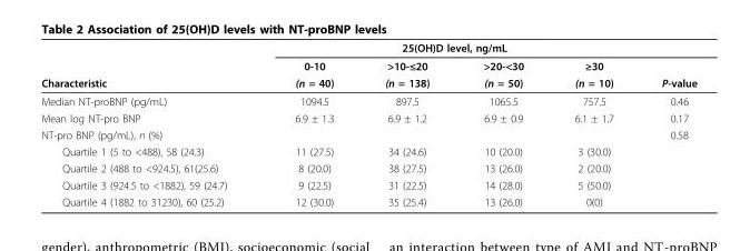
<table><thead><tr><td rowspan="3">Characteristic</td><td rowspan="3">0-10 (n = 40)</td><td colspan="2">25(OH)D level, ng/mL</td><td rowspan="3">≥30 (n = 10)</td><td rowspan="3">P-value</td></tr><tr><td rowspan="2">&gt;10-≤20 (n = 138)</td><td rowspan="2">&gt;20-&lt;30 (n = 50)</td></tr><tr></tr></thead><tbody><tr><td>Median NT-proBNP (pg/mL)</td><td>1094.5</td><td>897.5</td><td>1065.5</td><td>757.5</td><td>0.46</td></tr><tr><td>Mean log NT-pro BNP</td><td>6.9 ± 1.3</td><td>6.9 ± 1.2</td><td>6.9 ± 0.9</td><td>6.1 ± 1.7</td><td>0.17</td></tr><tr><td>NT-pro BNP (pg/mL), n (%)</td><td></td><td></td><td></td><td></td><td>0.58</td></tr><tr><td>Quartile 1 (5 to &lt;488), 58 (24.3)</td><td>11 (27.5)</td><td>34 (24.6)</td><td>10 (20.0)</td><td>3 (30.0)</td><td></td></tr><tr><td>Quartile 2 (488 to &lt;924.5), 61(25.6)</td><td>8 (20.0)</td><td>38 (27.5)</td><td>13 (26.0)</td><td>2 (20.0)</td><td></td></tr><tr><td>Quartile 3 (924.5 to &lt;1882), 59 (24.7)</td><td>9 (22.5)</td><td>31 (22.5)</td><td>14 (28.0)</td><td>5 (50.0)</td><td></td></tr><tr><td>Quartile 4 (1882 to 31230), 60 (25.2)</td><td>12 (30.0)</td><td>35 (25.4)</td><td>13 (26.0)</td><td>0(0)</td><td></td></tr></tbody></table>